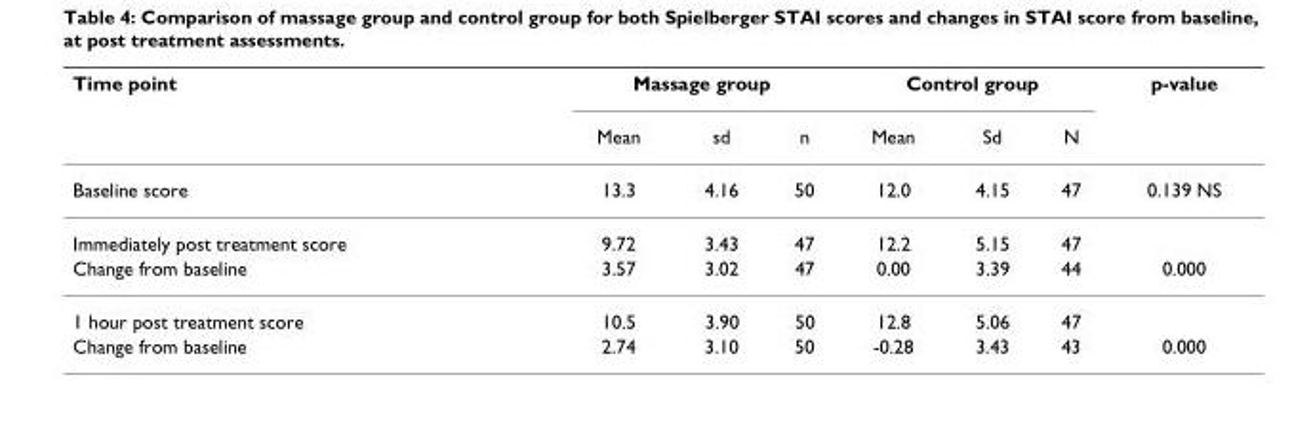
<table><thead><tr><td rowspan="2">Time point</td><td colspan="3">Massage group</td><td colspan="3">Control group</td><td rowspan="2">p-value</td></tr><tr><td>Mean</td><td>sd</td><td>n</td><td>Mean</td><td>Sd</td><td>N</td></tr></thead><tbody><tr><td>Baseline score</td><td>13.3</td><td>4.16</td><td>50</td><td>12.0</td><td>4.15</td><td>47</td><td>0.139 NS</td></tr><tr><td>Immediately post treatment score</td><td>9.72</td><td>3.43</td><td>47</td><td>12.2</td><td>5.15</td><td>47</td><td></td></tr><tr><td>Change from baseline</td><td>3.57</td><td>3.02</td><td>47</td><td>0.00</td><td>3.39</td><td>44</td><td>0.000</td></tr><tr><td>1 hour post treatment score</td><td>10.5</td><td>3.90</td><td>50</td><td>12.8</td><td>5.06</td><td>47</td><td></td></tr><tr><td>Change from baseline</td><td>2.74</td><td>3.10</td><td>50</td><td>-0.28</td><td>3.43</td><td>43</td><td>0.000</td></tr></tbody></table>